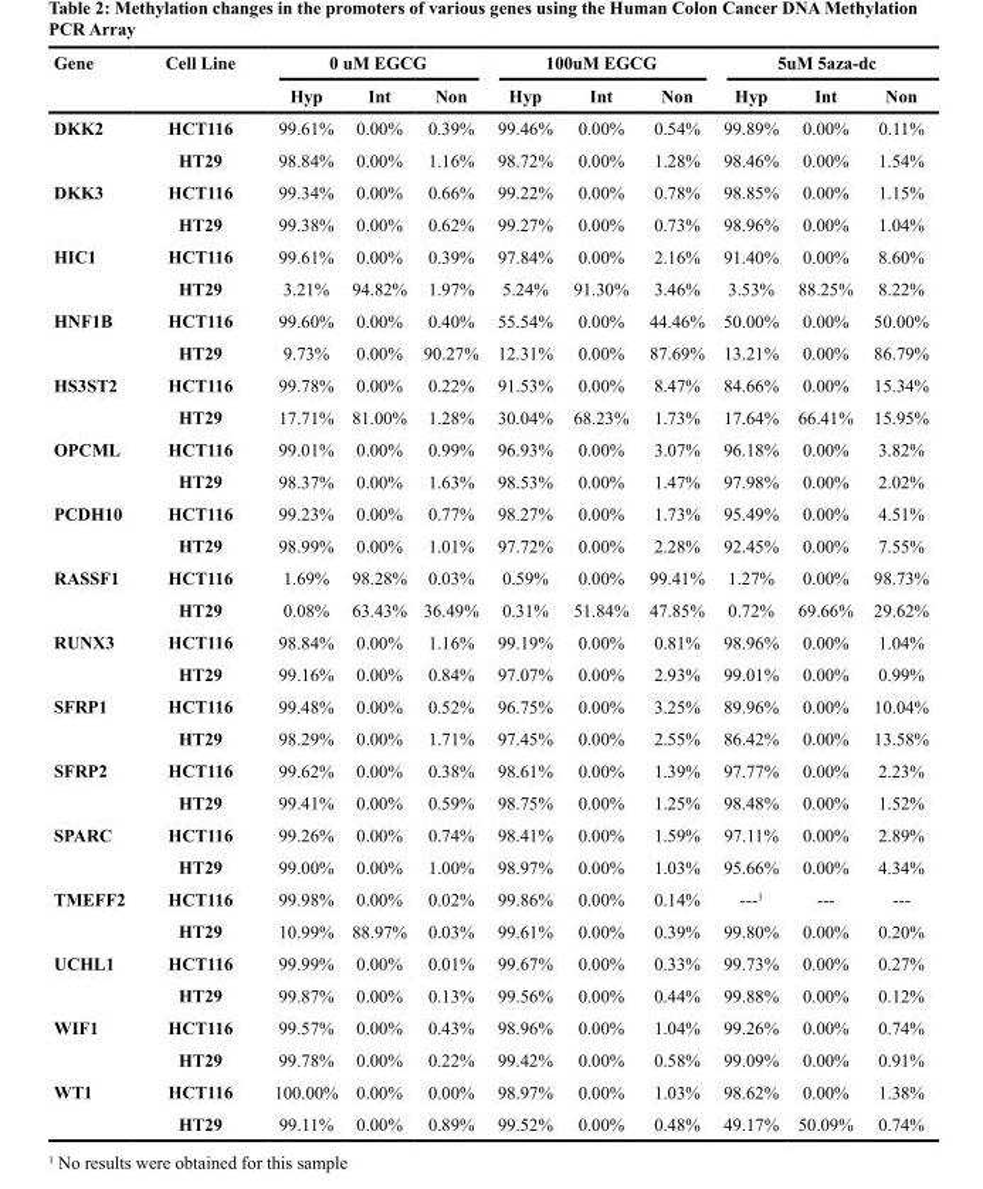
<table><thead><tr><td rowspan="2">Gene</td><td rowspan="2">Cell Line</td><td colspan="3">0 uM EGCG</td><td colspan="3">100uM EGCG</td><td colspan="3">5uM 5aza-dc</td></tr><tr><td>Hyp</td><td>Int</td><td>Non</td><td>Hyp</td><td>Int</td><td>Non</td><td>Hyp</td><td>Int</td><td>Non</td></tr></thead><tbody><tr><td rowspan="2">DKK2</td><td>HCT116</td><td>99.61%</td><td>0.00%</td><td>0.39%</td><td>99.46%</td><td>0.00%</td><td>0.54%</td><td>99.89%</td><td>0.00%</td><td>0.11%</td></tr><tr><td>HT29</td><td>98.84%</td><td>0.00%</td><td>1.16%</td><td>98.72%</td><td>0.00%</td><td>1.28%</td><td>98.46%</td><td>0.00%</td><td>1.54%</td></tr><tr><td rowspan="2">DKK3</td><td>HCT116</td><td>99.34%</td><td>0.00%</td><td>0.66%</td><td>99.22%</td><td>0.00%</td><td>0.78%</td><td>98.85%</td><td>0.00%</td><td>1.15%</td></tr><tr><td>HT29</td><td>99.38%</td><td>0.00%</td><td>0.62%</td><td>99.27%</td><td>0.00%</td><td>0.73%</td><td>98.96%</td><td>0.00%</td><td>1.04%</td></tr><tr><td rowspan="2">HIC1</td><td>HCT116</td><td>99.61%</td><td>0.00%</td><td>0.39%</td><td>97.84%</td><td>0.00%</td><td>2.16%</td><td>91.40%</td><td>0.00%</td><td>8.60%</td></tr><tr><td>HT29</td><td>3.21%</td><td>94.82%</td><td>1.97%</td><td>5.24%</td><td>91.30%</td><td>3.46%</td><td>3.53%</td><td>88.25%</td><td>8.22%</td></tr><tr><td rowspan="2">HNF1B</td><td>HCT116</td><td>99.60%</td><td>0.00%</td><td>0.40%</td><td>55.54%</td><td>0.00%</td><td>44.46%</td><td>50.00%</td><td>0.00%</td><td>50.00%</td></tr><tr><td>HT29</td><td>9.73%</td><td>0.00%</td><td>90.27%</td><td>12.31%</td><td>0.00%</td><td>87.69%</td><td>13.21%</td><td>0.00%</td><td>86.79%</td></tr><tr><td rowspan="2">HS3ST2</td><td>HCT116</td><td>99.78%</td><td>0.00%</td><td>0.22%</td><td>91.53%</td><td>0.00%</td><td>8.47%</td><td>84.66%</td><td>0.00%</td><td>15.34%</td></tr><tr><td>HT29</td><td>17.71%</td><td>81.00%</td><td>1.28%</td><td>30.04%</td><td>68.23%</td><td>1.73%</td><td>17.64%</td><td>66.41%</td><td>15.95%</td></tr><tr><td rowspan="2">OPCML</td><td>HCT116</td><td>99.01%</td><td>0.00%</td><td>0.99%</td><td>96.93%</td><td>0.00%</td><td>3.07%</td><td>96.18%</td><td>0.00%</td><td>3.82%</td></tr><tr><td>HT29</td><td>98.37%</td><td>0.00%</td><td>1.63%</td><td>98.53%</td><td>0.00%</td><td>1.47%</td><td>97.98%</td><td>0.00%</td><td>2.02%</td></tr><tr><td rowspan="2">PCDH10</td><td>HCT116</td><td>99.23%</td><td>0.00%</td><td>0.77%</td><td>98.27%</td><td>0.00%</td><td>1.73%</td><td>95.49%</td><td>0.00%</td><td>4.51%</td></tr><tr><td>HT29</td><td>98.99%</td><td>0.00%</td><td>1.01%</td><td>97.72%</td><td>0.00%</td><td>2.28%</td><td>92.45%</td><td>0.00%</td><td>7.55%</td></tr><tr><td rowspan="2">RASSF1</td><td>HCT116</td><td>1.69%</td><td>98.28%</td><td>0.03%</td><td>0.59%</td><td>0.00%</td><td>99.41%</td><td>1.27%</td><td>0.00%</td><td>98.73%</td></tr><tr><td>HT29</td><td>0.08%</td><td>63.43%</td><td>36.49%</td><td>0.31%</td><td>51.84%</td><td>47.85%</td><td>0.72%</td><td>69.66%</td><td>29.62%</td></tr><tr><td rowspan="2">RUNX3</td><td>HCT116</td><td>98.84%</td><td>0.00%</td><td>1.16%</td><td>99.19%</td><td>0.00%</td><td>0.81%</td><td>98.96%</td><td>0.00%</td><td>1.04%</td></tr><tr><td>HT29</td><td>99.16%</td><td>0.00%</td><td>0.84%</td><td>97.07%</td><td>0.00%</td><td>2.93%</td><td>99.01%</td><td>0.00%</td><td>0.99%</td></tr><tr><td rowspan="2">SFRP1</td><td>HCT116</td><td>99.48%</td><td>0.00%</td><td>0.52%</td><td>96.75%</td><td>0.00%</td><td>3.25%</td><td>89.96%</td><td>0.00%</td><td>10.04%</td></tr><tr><td>HT29</td><td>98.29%</td><td>0.00%</td><td>1.71%</td><td>97.45%</td><td>0.00%</td><td>2.55%</td><td>86.42%</td><td>0.00%</td><td>13.58%</td></tr><tr><td rowspan="2">SFRP2</td><td>HCT116</td><td>99.62%</td><td>0.00%</td><td>0.38%</td><td>98.61%</td><td>0.00%</td><td>1.39%</td><td>97.77%</td><td>0.00%</td><td>2.23%</td></tr><tr><td>HT29</td><td>99.41%</td><td>0.00%</td><td>0.59%</td><td>98.75%</td><td>0.00%</td><td>1.25%</td><td>98.48%</td><td>0.00%</td><td>1.52%</td></tr><tr><td rowspan="2">SPARC</td><td>HCT116</td><td>99.26%</td><td>0.00%</td><td>0.74%</td><td>98.41%</td><td>0.00%</td><td>1.59%</td><td>97.11%</td><td>0.00%</td><td>2.89%</td></tr><tr><td>HT29</td><td>99.00%</td><td>0.00%</td><td>1.00%</td><td>98.97%</td><td>0.00%</td><td>1.03%</td><td>95.66%</td><td>0.00%</td><td>4.34%</td></tr><tr><td rowspan="2">TMEFF2</td><td>HCT116</td><td>99.98%</td><td>0.00%</td><td>0.02%</td><td>99.86%</td><td>0.00%</td><td>0.14%</td><td>---<sup>1</sup></td><td>---</td><td>---</td></tr><tr><td>HT29</td><td>10.99%</td><td>88.97%</td><td>0.03%</td><td>99.61%</td><td>0.00%</td><td>0.39%</td><td>99.80%</td><td>0.00%</td><td>0.20%</td></tr><tr><td rowspan="2">UCHL1</td><td>HCT116</td><td>99.99%</td><td>0.00%</td><td>0.01%</td><td>99.67%</td><td>0.00%</td><td>0.33%</td><td>99.73%</td><td>0.00%</td><td>0.27%</td></tr><tr><td>HT29</td><td>99.87%</td><td>0.00%</td><td>0.13%</td><td>99.56%</td><td>0.00%</td><td>0.44%</td><td>99.88%</td><td>0.00%</td><td>0.12%</td></tr><tr><td rowspan="2">WIF1</td><td>HCT116</td><td>99.57%</td><td>0.00%</td><td>0.43%</td><td>98.96%</td><td>0.00%</td><td>1.04%</td><td>99.26%</td><td>0.00%</td><td>0.74%</td></tr><tr><td>HT29</td><td>99.78%</td><td>0.00%</td><td>0.22%</td><td>99.42%</td><td>0.00%</td><td>0.58%</td><td>99.09%</td><td>0.00%</td><td>0.91%</td></tr><tr><td rowspan="2">WT1</td><td>HCT116</td><td>100.00%</td><td>0.00%</td><td>0.00%</td><td>98.97%</td><td>0.00%</td><td>1.03%</td><td>98.62%</td><td>0.00%</td><td>1.38%</td></tr><tr><td>HT29</td><td>99.11%</td><td>0.00%</td><td>0.89%</td><td>99.52%</td><td>0.00%</td><td>0.48%</td><td>49.17%</td><td>50.09%</td><td>0.74%</td></tr></tbody></table>